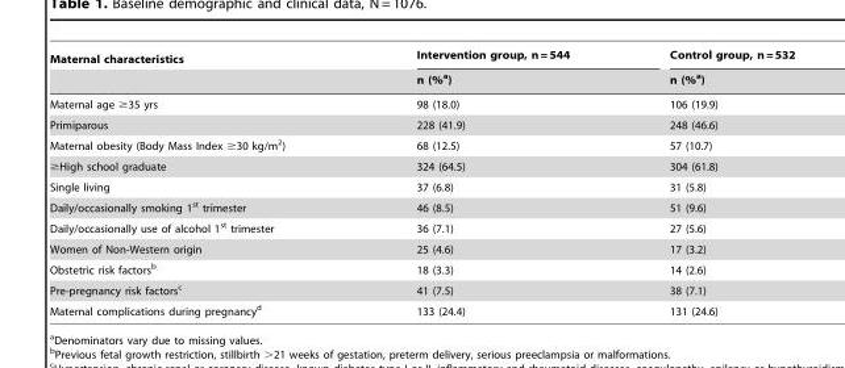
<table><thead><tr><td rowspan="2">Maternal characteristics</td><td rowspan="2">Intervention group, n = 544 n (%<sup>a</sup>)</td><td rowspan="2">Control group, n = 532 n (%<sup>a</sup>)</td></tr><tr></tr></thead><tbody><tr><td>Maternal age ≥35 yrs</td><td>98 (18.0)</td><td>106 (19.9)</td></tr><tr><td>Primiparous</td><td>228 (41.9)</td><td>248 (46.6)</td></tr><tr><td>Maternal obesity (Body Mass Index ≥30 kg/m<sup>2</sup>)</td><td>68 (12.5)</td><td>57 (10.7)</td></tr><tr><td>≥High school graduate</td><td>324 (64.5)</td><td>304 (61.8)</td></tr><tr><td>Single living</td><td>37 (6.8)</td><td>31 (5.8)</td></tr><tr><td>Daily/occasionally smoking 1<sup>st</sup> trimester</td><td>46 (8.5)</td><td>51 (9.6)</td></tr><tr><td>Daily/occasionally use of alcohol 1<sup>st</sup> trimester</td><td>36 (7.1)</td><td>27 (5.6)</td></tr><tr><td>Women of Non-Western origin</td><td>25 (4.6)</td><td>17 (3.2)</td></tr><tr><td>Obstetric risk factors<sup>b</sup></td><td>18 (3.3)</td><td>14 (2.6)</td></tr><tr><td>Pre-pregnancy risk factors<sup>c</sup></td><td>41 (7.5)</td><td>38 (7.1)</td></tr><tr><td>Maternal complications during pregnancy<sup>d</sup></td><td>133 (24.4)</td><td>131 (24.6)</td></tr></tbody></table>